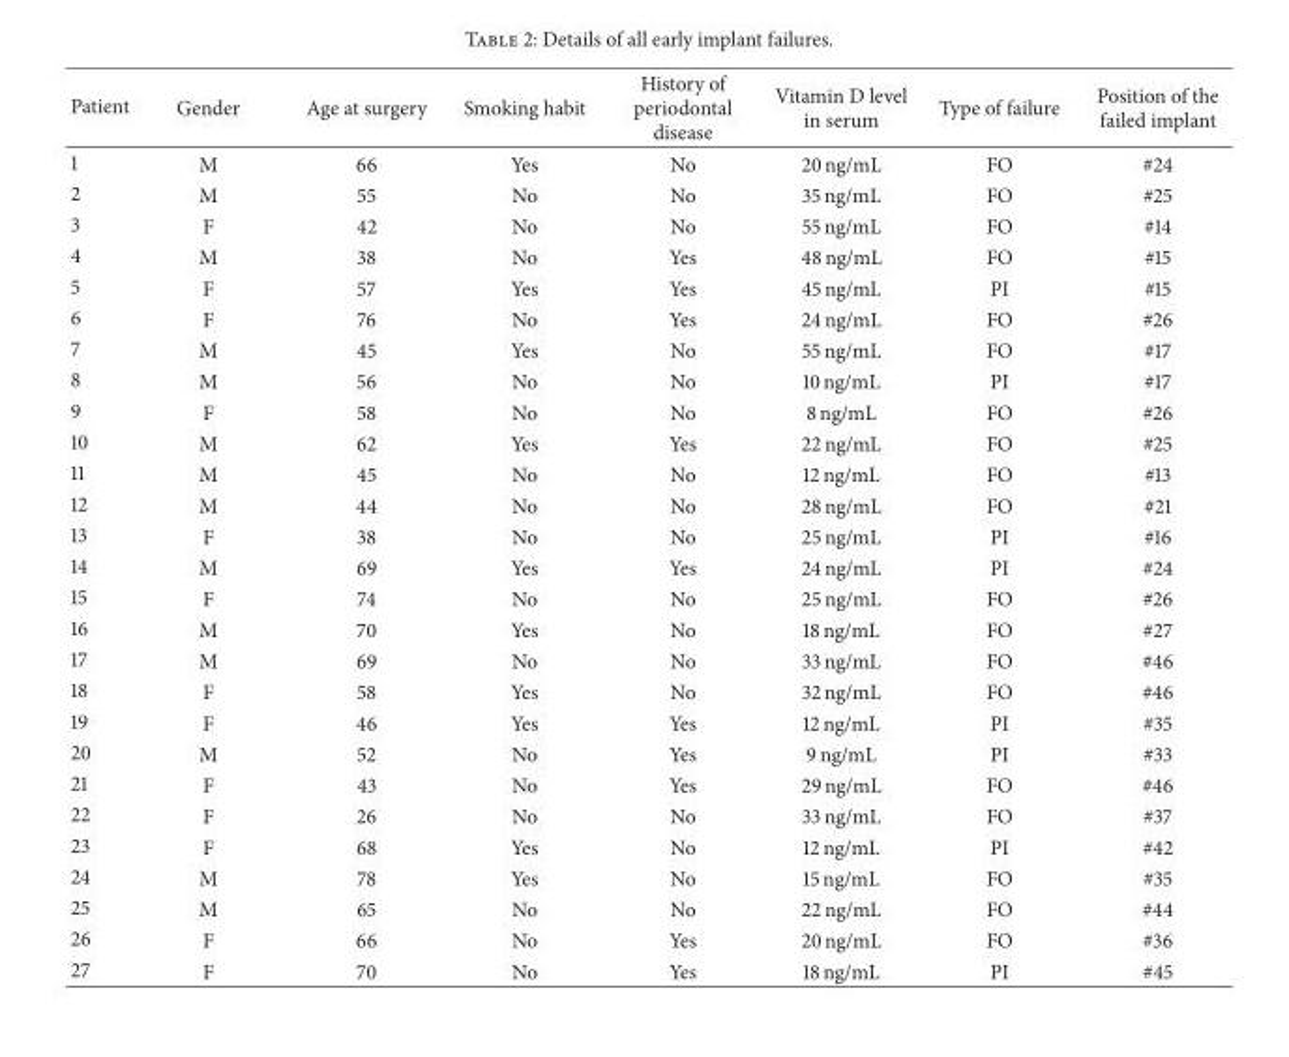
<table><thead><tr><td>Patient</td><td>Gender</td><td>Age at surgery</td><td>Smoking habit</td><td>History of periodontal disease</td><td>Vitamin D level in serum</td><td>Type of failure</td><td>Position of the failed implant</td></tr></thead><tbody><tr><td>1</td><td>M</td><td>66</td><td>Yes</td><td>No</td><td>20 ng/mL</td><td>FO</td><td>#24</td></tr><tr><td>2</td><td>M</td><td>55</td><td>No</td><td>No</td><td>35 ng/mL</td><td>FO</td><td>#25</td></tr><tr><td>3</td><td>F</td><td>42</td><td>No</td><td>No</td><td>55 ng/mL</td><td>FO</td><td>#14</td></tr><tr><td>4</td><td>M</td><td>38</td><td>No</td><td>Yes</td><td>48 ng/mL</td><td>FO</td><td>#15</td></tr><tr><td>5</td><td>F</td><td>57</td><td>Yes</td><td>Yes</td><td>45 ng/mL</td><td>PI</td><td>#15</td></tr><tr><td>6</td><td>F</td><td>76</td><td>No</td><td>Yes</td><td>24 ng/mL</td><td>FO</td><td>#26</td></tr><tr><td>7</td><td>M</td><td>45</td><td>Yes</td><td>No</td><td>55 ng/mL</td><td>FO</td><td>#17</td></tr><tr><td>8</td><td>M</td><td>56</td><td>No</td><td>No</td><td>10 ng/mL</td><td>PI</td><td>#17</td></tr><tr><td>9</td><td>F</td><td>58</td><td>No</td><td>No</td><td>8 ng/mL</td><td>FO</td><td>#26</td></tr><tr><td>10</td><td>M</td><td>62</td><td>Yes</td><td>Yes</td><td>22 ng/mL</td><td>FO</td><td>#25</td></tr><tr><td>11</td><td>M</td><td>45</td><td>No</td><td>No</td><td>12 ng/mL</td><td>FO</td><td>#13</td></tr><tr><td>12</td><td>M</td><td>44</td><td>No</td><td>No</td><td>28 ng/mL</td><td>FO</td><td>#21</td></tr><tr><td>13</td><td>F</td><td>38</td><td>No</td><td>No</td><td>25 ng/mL</td><td>PI</td><td>#16</td></tr><tr><td>14</td><td>M</td><td>69</td><td>Yes</td><td>Yes</td><td>24 ng/mL</td><td>PI</td><td>#24</td></tr><tr><td>15</td><td>F</td><td>74</td><td>No</td><td>No</td><td>25 ng/mL</td><td>FO</td><td>#26</td></tr><tr><td>16</td><td>M</td><td>70</td><td>Yes</td><td>No</td><td>18 ng/mL</td><td>FO</td><td>#27</td></tr><tr><td>17</td><td>M</td><td>69</td><td>No</td><td>No</td><td>33 ng/mL</td><td>FO</td><td>#46</td></tr><tr><td>18</td><td>F</td><td>58</td><td>Yes</td><td>No</td><td>32 ng/mL</td><td>FO</td><td>#46</td></tr><tr><td>19</td><td>F</td><td>46</td><td>Yes</td><td>Yes</td><td>12 ng/mL</td><td>PI</td><td>#35</td></tr><tr><td>20</td><td>M</td><td>52</td><td>No</td><td>Yes</td><td>9 ng/mL</td><td>PI</td><td>#33</td></tr><tr><td>21</td><td>F</td><td>43</td><td>No</td><td>Yes</td><td>29 ng/mL</td><td>FO</td><td>#46</td></tr><tr><td>22</td><td>F</td><td>26</td><td>No</td><td>No</td><td>33 ng/mL</td><td>FO</td><td>#37</td></tr><tr><td>23</td><td>F</td><td>68</td><td>Yes</td><td>No</td><td>12 ng/mL</td><td>PI</td><td>#42</td></tr><tr><td>24</td><td>M</td><td>78</td><td>Yes</td><td>No</td><td>15 ng/mL</td><td>FO</td><td>#35</td></tr><tr><td>25</td><td>M</td><td>65</td><td>No</td><td>No</td><td>22 ng/mL</td><td>FO</td><td>#44</td></tr><tr><td>26</td><td>F</td><td>66</td><td>No</td><td>Yes</td><td>20 ng/mL</td><td>FO</td><td>#36</td></tr><tr><td>27</td><td>F</td><td>70</td><td>No</td><td>Yes</td><td>18 ng/mL</td><td>PI</td><td>#45</td></tr></tbody></table>